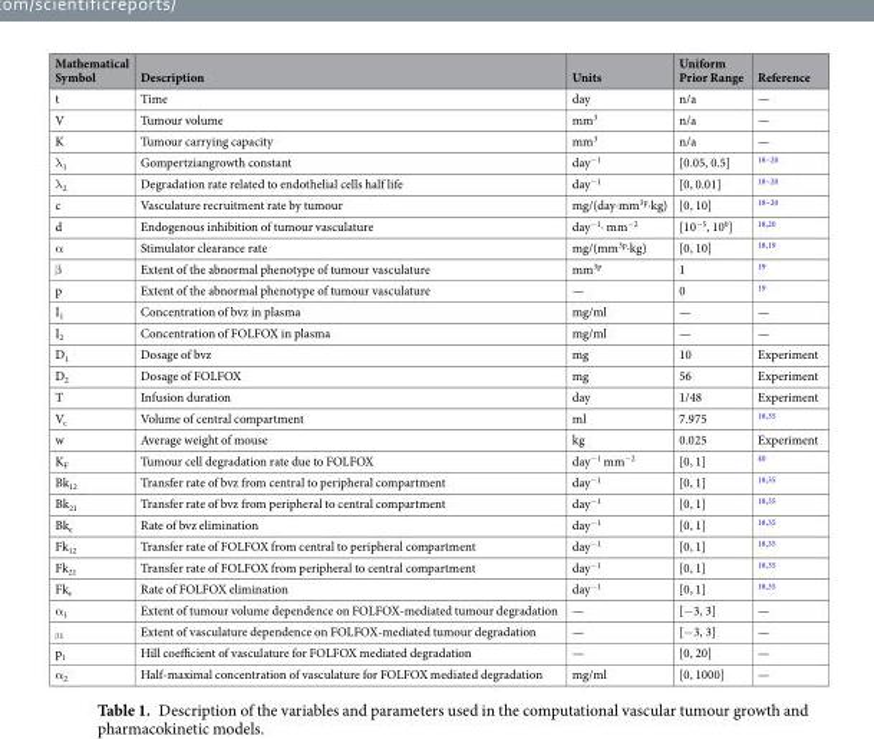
<table><thead><tr><td>Mathematical Symbol</td><td>Description</td><td>Units</td><td>Uniform Prior Range</td><td>Reference</td></tr></thead><tbody><tr><td>t</td><td>Time</td><td>day</td><td>n/a</td><td>—</td></tr><tr><td>V</td><td>Tumour volume</td><td>mm<sup>3</sup></td><td>n/a</td><td>—</td></tr><tr><td>K</td><td>Tumour carrying capacity</td><td>mm<sup>3</sup></td><td>n/a</td><td>—</td></tr><tr><td>λ<sub>1</sub></td><td>Gompertziangrowth constant</td><td>day<sup>−1</sup></td><td>[0.05, 0.5]</td><td><sup>18–20</sup></td></tr><tr><td>λ<sub>2</sub></td><td>Degradation rate related to endothelial cells half life</td><td>day<sup>−1</sup></td><td>[0, 0.01]</td><td><sup>18–20</sup></td></tr><tr><td>c</td><td>Vasculature recruitment rate by tumour</td><td>mg/(day·mm<sup>3p</sup>·kg)</td><td>[0, 10]</td><td><sup>18–20</sup></td></tr><tr><td>d</td><td>Endogenous inhibition of tumour vasculature</td><td>day<sup>−1</sup>· mm<sup>−2</sup></td><td>[10<sup>−5</sup>, 10<sup>0</sup>]</td><td><sup>18,20</sup></td></tr><tr><td>α</td><td>Stimulator clearance rate</td><td>mg/(mm<sup>3p</sup>·kg)</td><td>[0, 10]</td><td><sup>18,19</sup></td></tr><tr><td>β</td><td>Extent of the abnormal phenotype of tumour vasculature</td><td>mm<sup>3p</sup></td><td>1</td><td><sup>19</sup></td></tr><tr><td>p</td><td>Extent of the abnormal phenotype of tumour vasculature</td><td>—</td><td>0</td><td><sup>19</sup></td></tr><tr><td>I<sub>1</sub></td><td>Concentration of bvz in plasma</td><td>mg/ml</td><td>—</td><td>—</td></tr><tr><td>I<sub>2</sub></td><td>Concentration of FOLFOX in plasma</td><td>mg/ml</td><td>—</td><td>—</td></tr><tr><td>D<sub>1</sub></td><td>Dosage of bvz</td><td>mg</td><td>10</td><td>Experiment</td></tr><tr><td>D<sub>2</sub></td><td>Dosage of FOLFOX</td><td>mg</td><td>56</td><td>Experiment</td></tr><tr><td>T</td><td>Infusion duration</td><td>day</td><td>1/48</td><td>Experiment</td></tr><tr><td>V<sub>c</sub></td><td>Volume of central compartment</td><td>ml</td><td>7.975</td><td><sup>18,35</sup></td></tr><tr><td>w</td><td>Average weight of mouse</td><td>kg</td><td>0.025</td><td>Experiment</td></tr><tr><td>K<sub>F</sub></td><td>Tumour cell degradation rate due to FOLFOX</td><td>day<sup>−1</sup> mm<sup>−2</sup></td><td>[0, 1]</td><td><sup>40</sup></td></tr><tr><td>Bk<sub>12</sub></td><td>Transfer rate of bvz from central to peripheral compartment</td><td>day<sup>−1</sup></td><td>[0, 1]</td><td><sup>18,35</sup></td></tr><tr><td>Bk<sub>21</sub></td><td>Transfer rate of bvz from peripheral to central compartment</td><td>day<sup>−1</sup></td><td>[0, 1]</td><td><sup>18,35</sup></td></tr><tr><td>Bk<sub>e</sub></td><td>Rate of bvz elimination</td><td>day<sup>−1</sup></td><td>[0, 1]</td><td><sup>18,35</sup></td></tr><tr><td>Fk<sub>12</sub></td><td>Transfer rate of FOLFOX from central to peripheral compartment</td><td>day<sup>−1</sup></td><td>[0, 1]</td><td><sup>18,35</sup></td></tr><tr><td>Fk<sub>21</sub></td><td>Transfer rate of FOLFOX from peripheral to central compartment</td><td>day<sup>−1</sup></td><td>[0, 1]</td><td><sup>18,35</sup></td></tr><tr><td>Fk<sub>e</sub></td><td>Rate of FOLFOX elimination</td><td>day<sup>−1</sup></td><td>[0, 1]</td><td><sup>18,35</sup></td></tr><tr><td>α<sub>1</sub></td><td>Extent of tumour volume dependence on FOLFOX-mediated tumour degradation</td><td>—</td><td>[−3, 3]</td><td>—</td></tr><tr><td><sub>β1</sub></td><td>Extent of vasculature dependence on FOLFOX-mediated tumour degradation</td><td>—</td><td>[−3, 3]</td><td>—</td></tr><tr><td>p<sub>1</sub></td><td>Hill coefficient of vasculature for FOLFOX mediated degradation</td><td>—</td><td>[0, 20]</td><td>—</td></tr><tr><td>α<sub>2</sub></td><td>Half-maximal concentration of vasculature for FOLFOX mediated degradation</td><td>mg/ml</td><td>[0, 1000]</td><td>—</td></tr></tbody></table>